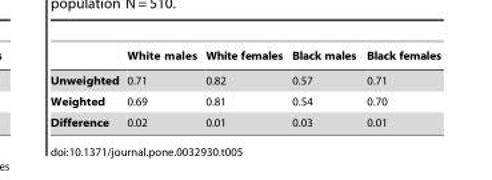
<table><thead><tr><td></td><td>White males</td><td>White females</td><td>Black males</td><td>Black females</td></tr></thead><tbody><tr><td>Unweighted</td><td>0.71</td><td>0.82</td><td>0.57</td><td>0.71</td></tr><tr><td>Weighted</td><td>0.69</td><td>0.81</td><td>0.54</td><td>0.70</td></tr><tr><td>Difference</td><td>0.02</td><td>0.01</td><td>0.03</td><td>0.01</td></tr></tbody></table>